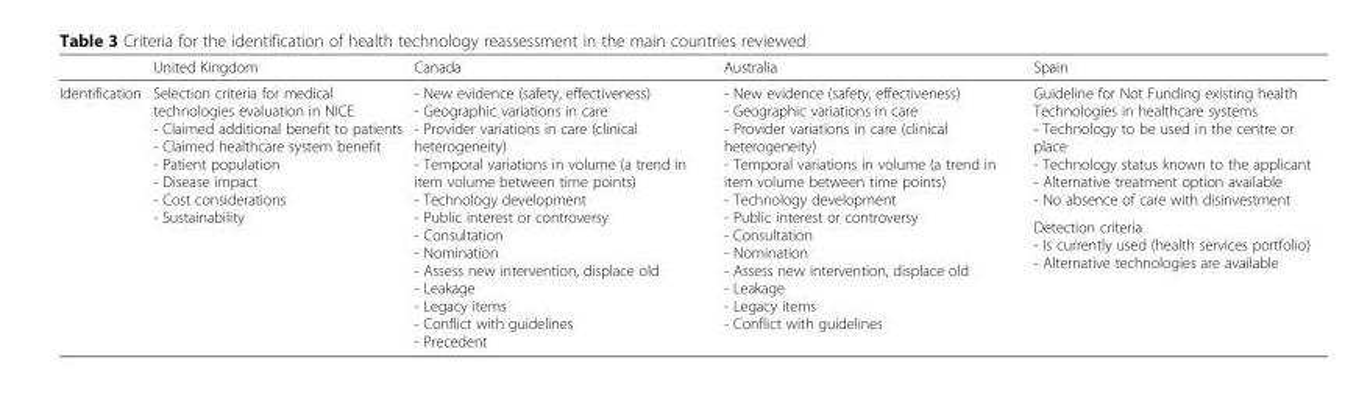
<table><thead><tr><td></td><td>United Kingdom</td><td>Canada</td><td>Australia</td><td>Spain</td></tr></thead><tbody><tr><td rowspan="2">Identification</td><td rowspan="2">Selection criteria for medical technologies evaluation in NICE - Claimed additional benefit to patients - Claimed healthcare system benefit - Patient population - Disease impact - Cost considerations - Sustainability</td><td rowspan="2">- New evidence (safety, effectiveness) - Geographic variations in care - Provider variations in care (clinical heterogeneity) - Temporal variations in volume (a trend in item volume between time points) - Technology development - Public interest or controversy - Consultation - Nomination - Assess new intervention, displace old - Leakage - Legacy items - Conflict with guidelines - Precedent</td><td rowspan="2">- New evidence (safety, effectiveness) - Geographic variations in care - Provider variations in care (clinical heterogeneity) - Temporal variations in volume (a trend in item volume between time points) - Technology development - Public interest or controversy - Consultation - Nomination - Assess new intervention, displace old - Leakage - Legacy items - Conflict with guidelines</td><td>Guideline for Not Funding existing health Technologies in healthcare systems - Technology to be used in the centre or place - Technology status known to the applicant - Alternative treatment option available - No absence of care with disinvestment</td></tr><tr><td>Detection criteria - Is currently used (health services portfolio) - Alternative technologies are available</td></tr></tbody></table>